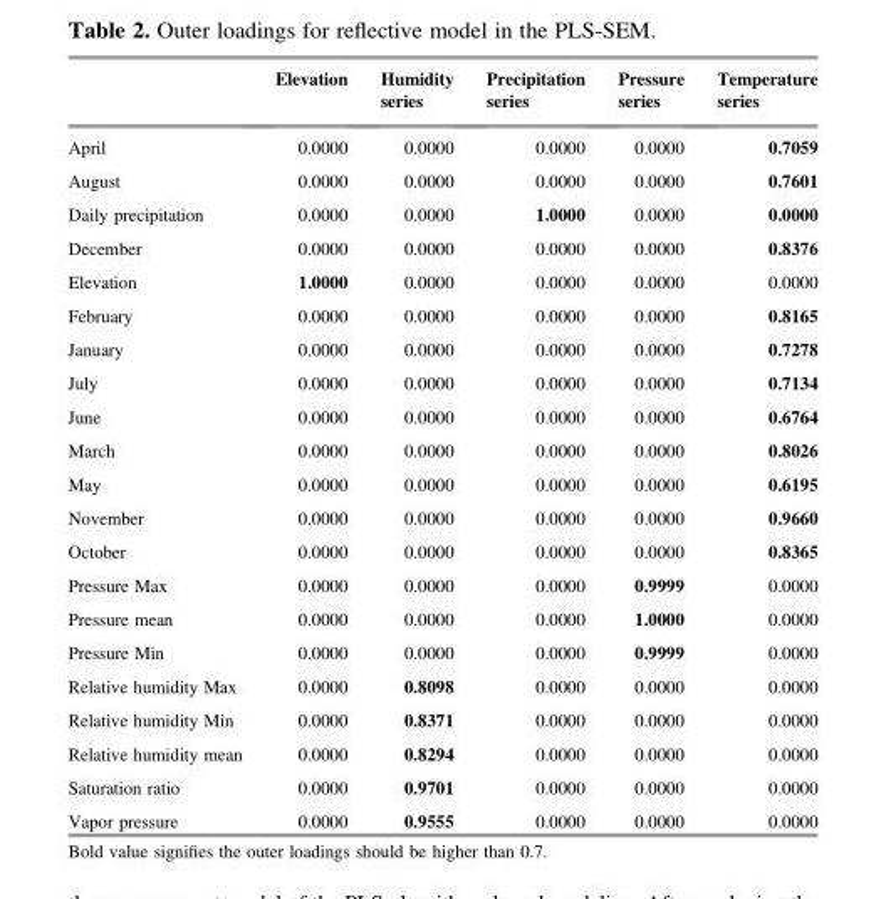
<table><thead><tr><td></td><td>Elevation</td><td>Humidity series</td><td>Precipitation series</td><td>Pressure series</td><td>Temperature series</td></tr></thead><tbody><tr><td>April</td><td>0.0000</td><td>0.0000</td><td>0.0000</td><td>0.0000</td><td>0.7059</td></tr><tr><td>August</td><td>0.0000</td><td>0.0000</td><td>0.0000</td><td>0.0000</td><td>0.7601</td></tr><tr><td>Daily precipitation</td><td>0.0000</td><td>0.0000</td><td>1.0000</td><td>0.0000</td><td>0.0000</td></tr><tr><td>December</td><td>0.0000</td><td>0.0000</td><td>0.0000</td><td>0.0000</td><td>0.8376</td></tr><tr><td>Elevation</td><td>1.0000</td><td>0.0000</td><td>0.0000</td><td>0.0000</td><td>0.0000</td></tr><tr><td>February</td><td>0.0000</td><td>0.0000</td><td>0.0000</td><td>0.0000</td><td>0.8165</td></tr><tr><td>January</td><td>0.0000</td><td>0.0000</td><td>0.0000</td><td>0.0000</td><td>0.7278</td></tr><tr><td>July</td><td>0.0000</td><td>0.0000</td><td>0.0000</td><td>0.0000</td><td>0.7134</td></tr><tr><td>June</td><td>0.0000</td><td>0.0000</td><td>0.0000</td><td>0.0000</td><td>0.6764</td></tr><tr><td>March</td><td>0.0000</td><td>0.0000</td><td>0.0000</td><td>0.0000</td><td>0.8026</td></tr><tr><td>May</td><td>0.0000</td><td>0.0000</td><td>0.0000</td><td>0.0000</td><td>0.6195</td></tr><tr><td>November</td><td>0.0000</td><td>0.0000</td><td>0.0000</td><td>0.0000</td><td>0.9660</td></tr><tr><td>October</td><td>0.0000</td><td>0.0000</td><td>0.0000</td><td>0.0000</td><td>0.8365</td></tr><tr><td>Pressure Max</td><td>0.0000</td><td>0.0000</td><td>0.0000</td><td>0.9999</td><td>0.0000</td></tr><tr><td>Pressure mean</td><td>0.0000</td><td>0.0000</td><td>0.0000</td><td>1.0000</td><td>0.0000</td></tr><tr><td>Pressure Min</td><td>0.0000</td><td>0.0000</td><td>0.0000</td><td>0.9999</td><td>0.0000</td></tr><tr><td>Relative humidity Max</td><td>0.0000</td><td>0.8098</td><td>0.0000</td><td>0.0000</td><td>0.0000</td></tr><tr><td>Relative humidity Min</td><td>0.0000</td><td>0.8371</td><td>0.0000</td><td>0.0000</td><td>0.0000</td></tr><tr><td>Relative humidity mean</td><td>0.0000</td><td>0.8294</td><td>0.0000</td><td>0.0000</td><td>0.0000</td></tr><tr><td>Saturation ratio</td><td>0.0000</td><td>0.9701</td><td>0.0000</td><td>0.0000</td><td>0.0000</td></tr><tr><td>Vapor pressure</td><td>0.0000</td><td>0.9555</td><td>0.0000</td><td>0.0000</td><td>0.0000</td></tr></tbody></table>